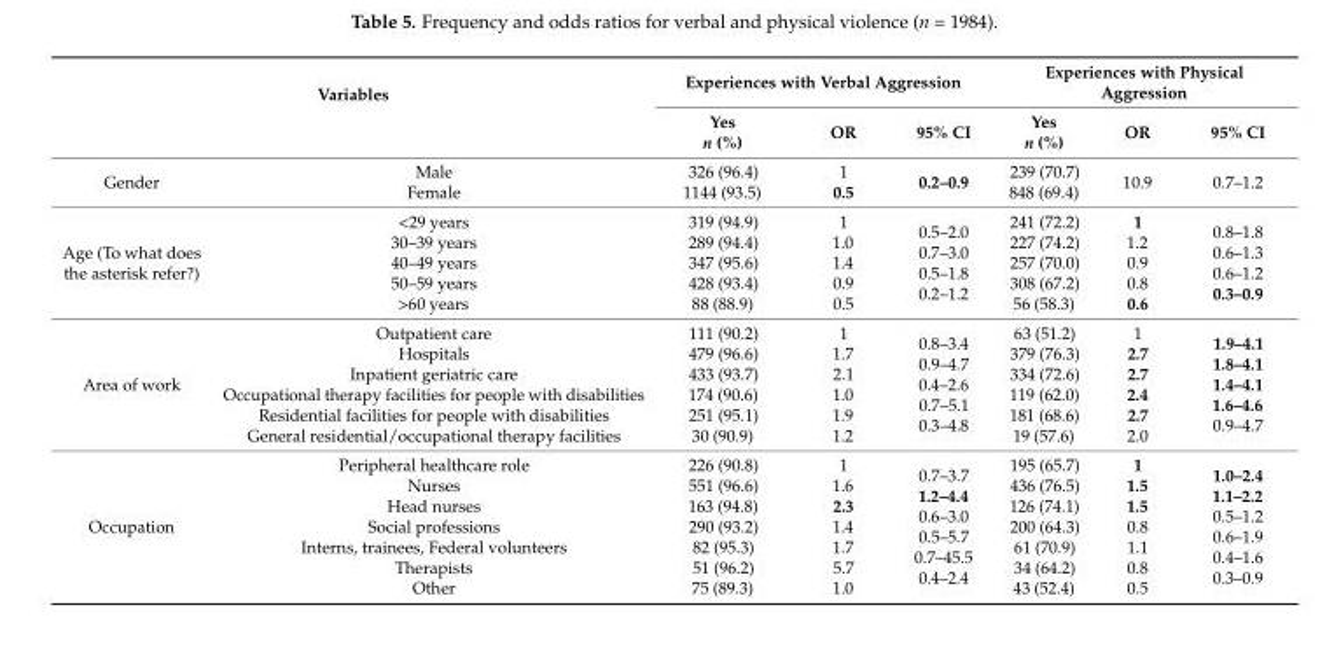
<table><thead><tr><td rowspan="2" colspan="2">Variables</td><td colspan="3">Experiences with Verbal Aggression</td><td colspan="3">Experiences with Physical Aggression</td></tr><tr><td rowspan="2">Yes n (%) 326 (96.4) 1144 (93.5)</td><td rowspan="2">OR 1 0.5</td><td rowspan="2">95% CI 0.2–0.9</td><td rowspan="2">Yes n (%) 239 (70.7) 848 (69.4)</td><td rowspan="2">OR 10.9</td><td rowspan="2">95% CI 0.7–1.2</td></tr><tr><td>Gender</td><td>Male Female</td></tr></thead><tbody><tr><td>Age (To what does the asterisk refer?)</td><td>&lt;29 years 30–39 years 40–49 years 50–59 years &gt;60 years</td><td>319 (94.9) 289 (94.4) 347 (95.6) 428 (93.4) 88 (88.9)</td><td>1 1.0 1.4 0.9 0.5</td><td>0.5–2.0 0.7–3.0 0.5–1.8 0.2–1.2</td><td>241 (72.2) 227 (74.2) 257 (70.0) 308 (67.2) 56 (58.3)</td><td>1 1.2 0.9 0.8 0.6</td><td>0.8–1.8 0.6–1.3 0.6–1.2 0.3–0.9</td></tr><tr><td>Area of work</td><td>Outpatient care Hospitals Inpatient geriatric care Occupational therapy facilities for people with disabilities Residential facilities for people with disabilities General residential/occupational therapy facilities</td><td>111 (90.2) 479 (96.6) 433 (93.7) 174 (90.6) 251 (95.1) 30 (90.9)</td><td>1 1.7 2.1 1.0 1.9 1.2</td><td>0.8–3.4 0.9–4.7 0.4–2.6 0.7–5.1 0.3–4.8</td><td>63 (51.2) 379 (76.3) 334 (72.6) 119 (62.0) 181 (68.6) 19 (57.6)</td><td>1 2.7 2.7 2.4 2.7 2.0</td><td>1.9–4.1 1.8–4.1 1.4–4.1 1.6–4.6 0.9–4.7</td></tr><tr><td>Occupation</td><td>Peripheral healthcare role Nurses Head nurses Social professions Interns, trainees, Federal volunteers Therapists Other</td><td>226 (90.8) 551 (96.6) 163 (94.8) 290 (93.2) 82 (95.3) 51 (96.2) 75 (89.3)</td><td>1 1.6 2.3 1.4 1.7 5.7 1.0</td><td>0.7–3.7 1.2–4.4 0.6–3.0 0.5–5.7 0.7–45.5 0.4–2.4</td><td>195 (65.7) 436 (76.5) 126 (74.1) 200 (64.3) 61 (70.9) 34 (64.2) 43 (52.4)</td><td>1 1.5 1.5 0.8 1.1 0.8 0.5</td><td>1.0–2.4 1.1–2.2 0.5–1.2 0.6–1.9 0.4–1.6 0.3–0.9</td></tr></tbody></table>